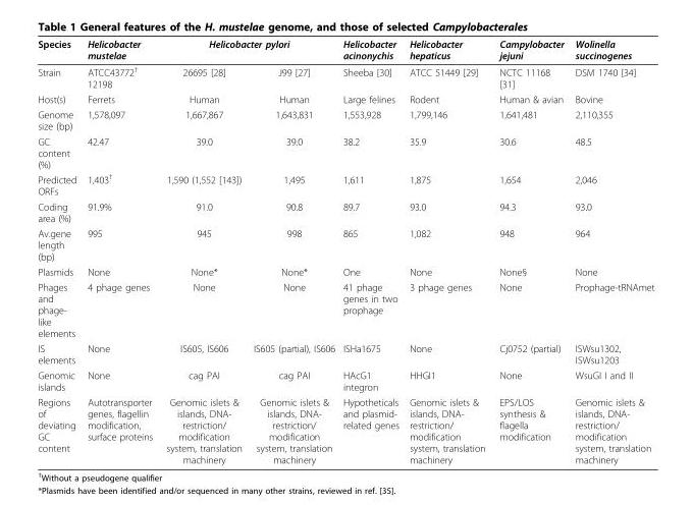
<table><thead><tr><td rowspan="2">Species Strain</td><td rowspan="2">Helicobacter mustelae ATCC43772<sup>†</sup> 12198</td><td colspan="2">Helicobacter pylori</td><td rowspan="2">Helicobacter acinonychis Sheeba [30]</td><td rowspan="2">Helicobacter hepaticus ATCC 51449 [29]</td><td rowspan="2">Campylobacter jejuni NCTC 11168 [31]</td><td rowspan="2">Wolinella succinogenes DSM 1740 [34]</td></tr><tr><td>26695 [28]</td><td>J99 [27]</td></tr></thead><tbody><tr><td>Host(s)</td><td>Ferrets</td><td>Human</td><td>Human</td><td>Large felines</td><td>Rodent</td><td>Human &amp; avian</td><td>Bovine</td></tr><tr><td>Genome size (bp)</td><td>1,578,097</td><td>1,667,867</td><td>1,643,831</td><td>1,553,928</td><td>1,799,146</td><td>1,641,481</td><td>2,110,355</td></tr><tr><td>GC content (%)</td><td>42.47</td><td>39.0</td><td>39.0</td><td>38.2</td><td>35.9</td><td>30.6</td><td>48.5</td></tr><tr><td>Predicted ORFs</td><td>1,403<sup>†</sup></td><td>1,590 (1,552 [143])</td><td>1,495</td><td>1,611</td><td>1,875</td><td>1,654</td><td>2,046</td></tr><tr><td>Coding area (%)</td><td>91.9%</td><td>91.0</td><td>90.8</td><td>89.7</td><td>93.0</td><td>94.3</td><td>93.0</td></tr><tr><td>Av.gene length (bp)</td><td>995</td><td>945</td><td>998</td><td>865</td><td>1,082</td><td>948</td><td>964</td></tr><tr><td>Plasmids</td><td>None</td><td>None*</td><td>None*</td><td>One</td><td>None</td><td>None§</td><td>None</td></tr><tr><td>Phages and phage- like elements</td><td>4 phage genes</td><td>None</td><td>None</td><td>41 phage genes in two prophage</td><td>3 phage genes</td><td>None</td><td>Prophage-tRNAmet</td></tr><tr><td>IS elements</td><td>None</td><td>IS605, IS606</td><td>IS605 (partial), IS606</td><td>ISHa1675</td><td>None</td><td>Cj0752 (partial)</td><td>ISWsu1302, ISWsu1203</td></tr><tr><td>Genomic islands</td><td>None</td><td>cag PAI</td><td>cag PAI</td><td>HAcG1 integron</td><td>HHGI1</td><td>None</td><td>WsuGI I and II</td></tr><tr><td>Regions of deviating GC content</td><td>Autotransporter genes, flagellin modification, surface proteins</td><td>Genomic islets &amp; islands, DNA- restriction/ modification system, translation machinery</td><td>Genomic islets &amp; islands, DNA- restriction/ modification system, translation machinery</td><td>Hypotheticals and plasmid- related genes</td><td>Genomic islets &amp; islands, DNA- restriction/ modification system, translation machinery</td><td>EPS/LOS synthesis &amp; flagella modification</td><td>Genomic islets &amp; islands, DNA- restriction/ modification system, translation machinery</td></tr></tbody></table>